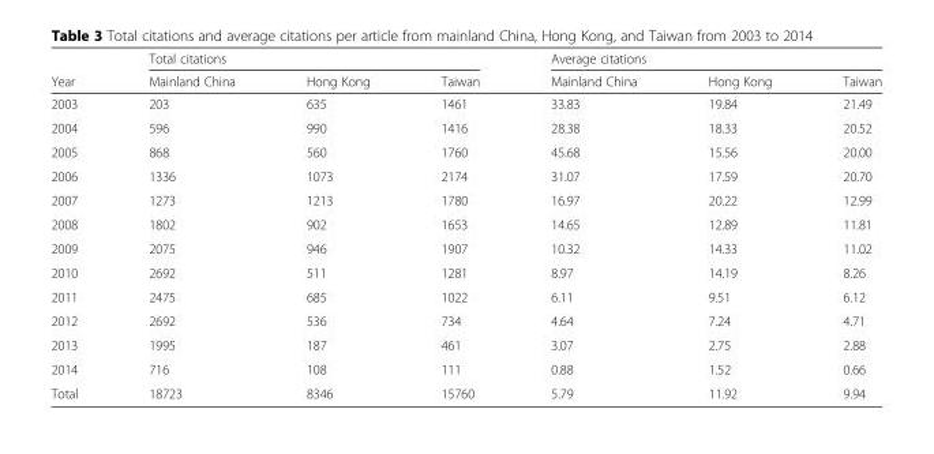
<table><thead><tr><td rowspan="2">Year</td><td colspan="3">Total citations</td><td colspan="3">Average citations</td></tr><tr><td>Mainland China</td><td>Hong Kong</td><td>Taiwan</td><td>Mainland China</td><td>Hong Kong</td><td>Taiwan</td></tr></thead><tbody><tr><td>2003</td><td>203</td><td>635</td><td>1461</td><td>33.83</td><td>19.84</td><td>21.49</td></tr><tr><td>2004</td><td>596</td><td>990</td><td>1416</td><td>28.38</td><td>18.33</td><td>20.52</td></tr><tr><td>2005</td><td>868</td><td>560</td><td>1760</td><td>45.68</td><td>15.56</td><td>20.00</td></tr><tr><td>2006</td><td>1336</td><td>1073</td><td>2174</td><td>31.07</td><td>17.59</td><td>20.70</td></tr><tr><td>2007</td><td>1273</td><td>1213</td><td>1780</td><td>16.97</td><td>20.22</td><td>12.99</td></tr><tr><td>2008</td><td>1802</td><td>902</td><td>1653</td><td>14.65</td><td>12.89</td><td>11.81</td></tr><tr><td>2009</td><td>2075</td><td>946</td><td>1907</td><td>10.32</td><td>14.33</td><td>11.02</td></tr><tr><td>2010</td><td>2692</td><td>511</td><td>1281</td><td>8.97</td><td>14.19</td><td>8.26</td></tr><tr><td>2011</td><td>2475</td><td>685</td><td>1022</td><td>6.11</td><td>9.51</td><td>6.12</td></tr><tr><td>2012</td><td>2692</td><td>536</td><td>734</td><td>4.64</td><td>7.24</td><td>4.71</td></tr><tr><td>2013</td><td>1995</td><td>187</td><td>461</td><td>3.07</td><td>2.75</td><td>2.88</td></tr><tr><td>2014</td><td>716</td><td>108</td><td>111</td><td>0.88</td><td>1.52</td><td>0.66</td></tr><tr><td>Total</td><td>18723</td><td>8346</td><td>15760</td><td>5.79</td><td>11.92</td><td>9.94</td></tr></tbody></table>